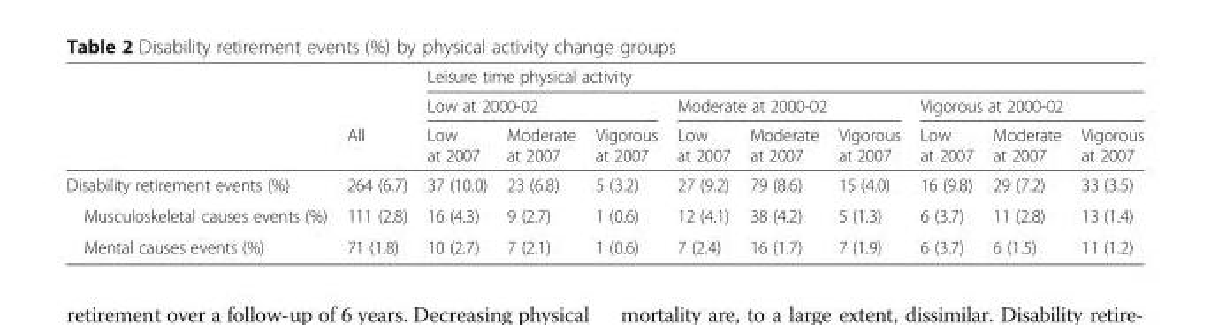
<table><thead><tr><td rowspan="3"></td><td rowspan="3">All</td><td colspan="9">Leisure time physical activity</td></tr><tr><td colspan="3">Low at 2000-02</td><td colspan="3">Moderate at 2000-02</td><td colspan="3">Vigorous at 2000-02</td></tr><tr><td>Low at 2007</td><td>Moderate at 2007</td><td>Vigorous at 2007</td><td>Low at 2007</td><td>Moderate at 2007</td><td>Vigorous at 2007</td><td>Low at 2007</td><td>Moderate at 2007</td><td>Vigorous at 2007</td></tr></thead><tbody><tr><td>Disability retirement events (%)</td><td>264 (6.7)</td><td>37 (10.0)</td><td>23 (6.8)</td><td>5 (3.2)</td><td>27 (9.2)</td><td>79 (8.6)</td><td>15 (4.0)</td><td>16 (9.8)</td><td>29 (7.2)</td><td>33 (3.5)</td></tr><tr><td>Musculoskeletal causes events (%)</td><td>111 (2.8)</td><td>16 (4.3)</td><td>9 (2.7)</td><td>1 (0.6)</td><td>12 (4.1)</td><td>38 (4.2)</td><td>5 (1.3)</td><td>6 (3.7)</td><td>11 (2.8)</td><td>13 (1.4)</td></tr><tr><td>Mental causes events (%)</td><td>71 (1.8)</td><td>10 (2.7)</td><td>7 (2.1)</td><td>1 (0.6)</td><td>7 (2.4)</td><td>16 (1.7)</td><td>7 (1.9)</td><td>6 (3.7)</td><td>6 (1.5)</td><td>11 (1.2)</td></tr></tbody></table>